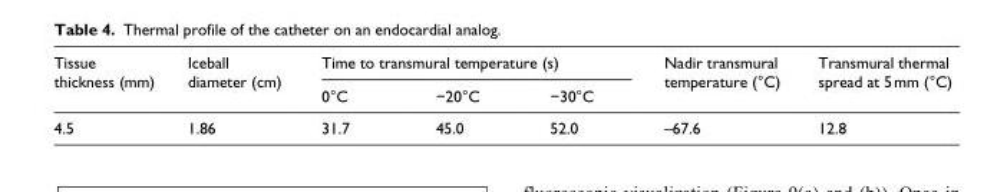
<table><thead><tr><td rowspan="2">Tissue thickness (mm)</td><td rowspan="2">Iceball diameter (cm)</td><td colspan="3">Time to transmural temperature (s)</td><td rowspan="2">Nadir transmural temperature (°C)</td><td rowspan="2">Transmural thermal spread at 5 mm (°C)</td></tr><tr><td>0°C</td><td>−20°C</td><td>−30°C</td></tr></thead><tbody><tr><td>4.5</td><td>1.86</td><td>31.7</td><td>45.0</td><td>52.0</td><td>–67.6</td><td>12.8</td></tr></tbody></table>